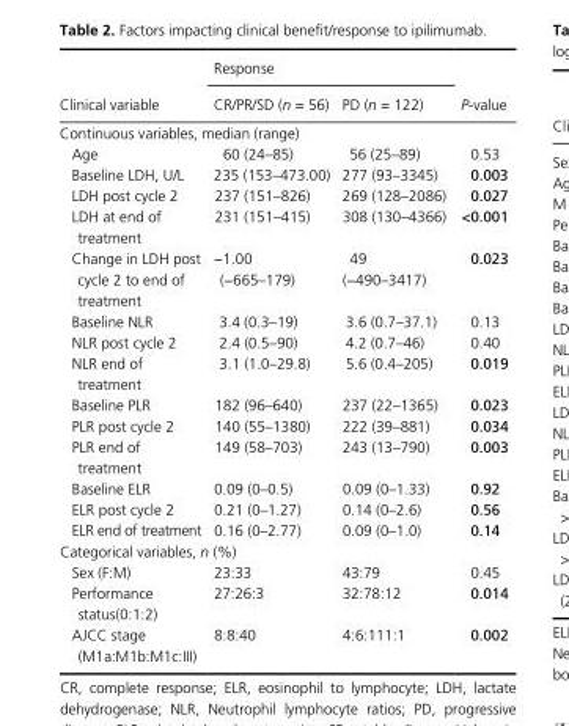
<table><thead><tr><td rowspan="2">Clinical variable</td><td colspan="2">Response</td><td rowspan="2">P- value</td></tr><tr><td>CR/PR/SD (n = 56)</td><td>PD (n = 122)</td></tr></thead><tbody><tr><td colspan="4">Continuous variables, median (range)</td></tr><tr><td>Age</td><td>60 (24–85)</td><td>56 (25–89)</td><td>0.53</td></tr><tr><td>Baseline LDH, U/L</td><td>235 (153–473.00)</td><td>277 (93–3345)</td><td>0.003</td></tr><tr><td>LDH post cycle 2</td><td>237 (151–826)</td><td>269 (128–2086)</td><td>0.027</td></tr><tr><td>LDH at end of treatment</td><td>231 (151–415)</td><td>308 (130–4366)</td><td>&lt;0.001</td></tr><tr><td>Change in LDH post cycle 2 to end of treatment</td><td>−1.00 (−665–179)</td><td>49 (−490–3417)</td><td>0.023</td></tr><tr><td>Baseline NLR</td><td>3.4 (0.3–19)</td><td>3.6 (0.7–37.1)</td><td>0.13</td></tr><tr><td>NLR post cycle 2</td><td>2.4 (0.5–90)</td><td>4.2 (0.7–46)</td><td>0.40</td></tr><tr><td>NLR end of treatment</td><td>3.1 (1.0–29.8)</td><td>5.6 (0.4–205)</td><td>0.019</td></tr><tr><td>Baseline PLR</td><td>182 (96–640)</td><td>237 (22–1365)</td><td>0.023</td></tr><tr><td>PLR post cycle 2</td><td>140 (55–1380)</td><td>222 (39–881)</td><td>0.034</td></tr><tr><td>PLR end of treatment</td><td>149 (58–703)</td><td>243 (13–790)</td><td>0.003</td></tr><tr><td>Baseline ELR</td><td>0.09 (0–0.5)</td><td>0.09 (0–1.33)</td><td>0.92</td></tr><tr><td>ELR post cycle 2</td><td>0.21 (0–1.27)</td><td>0.14 (0–2.6)</td><td>0.56</td></tr><tr><td>ELR end of treatment</td><td>0.16 (0–2.77)</td><td>0.09 (0–1.0)</td><td>0.14</td></tr><tr><td colspan="4">Categorical variables, n (%)</td></tr><tr><td>Sex (F:M)</td><td>23:33</td><td>43:79</td><td>0.45</td></tr><tr><td>Performance status(0:1:2)</td><td>27:26:3</td><td>32:78:12</td><td>0.014</td></tr><tr><td>AJCC stage (M1a:M1b:M1c:III)</td><td>8:8:40</td><td>4:6:111:1</td><td>0.002</td></tr></tbody></table>